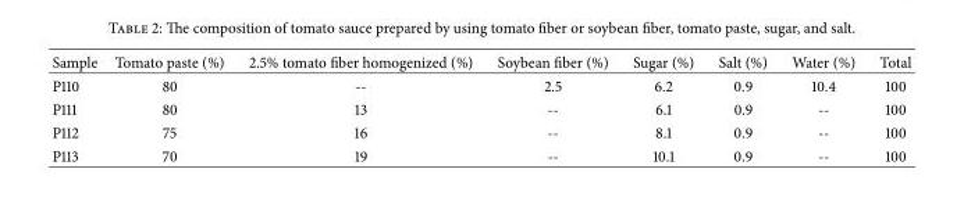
<table><thead><tr><td>Sample</td><td>Tomato paste (%)</td><td>2.5% tomato fiber homogenized (%)</td><td>Soybean fiber (%)</td><td>Sugar (%)</td><td>Salt (%)</td><td>Water (%)</td><td>Total</td></tr></thead><tbody><tr><td>P110</td><td>80</td><td>--</td><td>2.5</td><td>6.2</td><td>0.9</td><td>10.4</td><td>100</td></tr><tr><td>P111</td><td>80</td><td>13</td><td>--</td><td>6.1</td><td>0.9</td><td>--</td><td>100</td></tr><tr><td>P112</td><td>75</td><td>16</td><td>--</td><td>8.1</td><td>0.9</td><td>--</td><td>100</td></tr><tr><td>P113</td><td>70</td><td>19</td><td>--</td><td>10.1</td><td>0.9</td><td>--</td><td>100</td></tr></tbody></table>